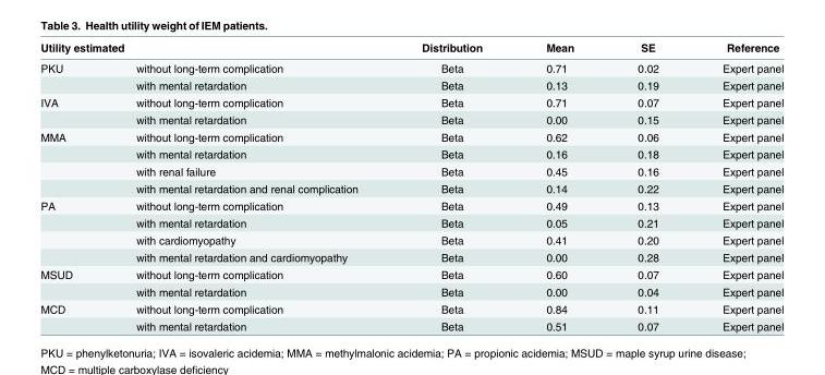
<table><thead><tr><td colspan="2">Utility estimated</td><td rowspan="2">Distribution Beta</td><td rowspan="2">Mean 0.71</td><td rowspan="2">SE 0.02</td><td rowspan="2">Reference Expert panel</td></tr><tr><td>PKU</td><td>without long-term complication</td></tr></thead><tbody><tr><td></td><td>with mental retardation</td><td>Beta</td><td>0.13</td><td>0.19</td><td>Expert panel</td></tr><tr><td rowspan="2">IVA</td><td>without long-term complication</td><td>Beta</td><td>0.71</td><td>0.07</td><td>Expert panel</td></tr><tr><td>with mental retardation</td><td>Beta</td><td>0.00</td><td>0.15</td><td>Expert panel</td></tr><tr><td rowspan="4">MMA</td><td>without long-term complication</td><td>Beta</td><td>0.62</td><td>0.06</td><td>Expert panel</td></tr><tr><td>with mental retardation</td><td>Beta</td><td>0.16</td><td>0.18</td><td>Expert panel</td></tr><tr><td>with renal failure</td><td>Beta</td><td>0.45</td><td>0.16</td><td>Expert panel</td></tr><tr><td>with mental retardation and renal complication</td><td>Beta</td><td>0.14</td><td>0.22</td><td>Expert panel</td></tr><tr><td rowspan="4">PA</td><td>without long-term complication</td><td>Beta</td><td>0.49</td><td>0.13</td><td>Expert panel</td></tr><tr><td>with mental retardation</td><td>Beta</td><td>0.05</td><td>0.21</td><td>Expert panel</td></tr><tr><td>with cardiomyopathy</td><td>Beta</td><td>0.41</td><td>0.20</td><td>Expert panel</td></tr><tr><td>with mental retardation and cardiomyopathy</td><td>Beta</td><td>0.00</td><td>0.28</td><td>Expert panel</td></tr><tr><td rowspan="2">MSUD</td><td>without long-term complication</td><td>Beta</td><td>0.60</td><td>0.07</td><td>Expert panel</td></tr><tr><td>with mental retardation</td><td>Beta</td><td>0.00</td><td>0.04</td><td>Expert panel</td></tr><tr><td rowspan="2">MCD</td><td>without long-term complication</td><td>Beta</td><td>0.84</td><td>0.11</td><td>Expert panel</td></tr><tr><td>with mental retardation</td><td>Beta</td><td>0.51</td><td>0.07</td><td>Expert panel</td></tr></tbody></table>